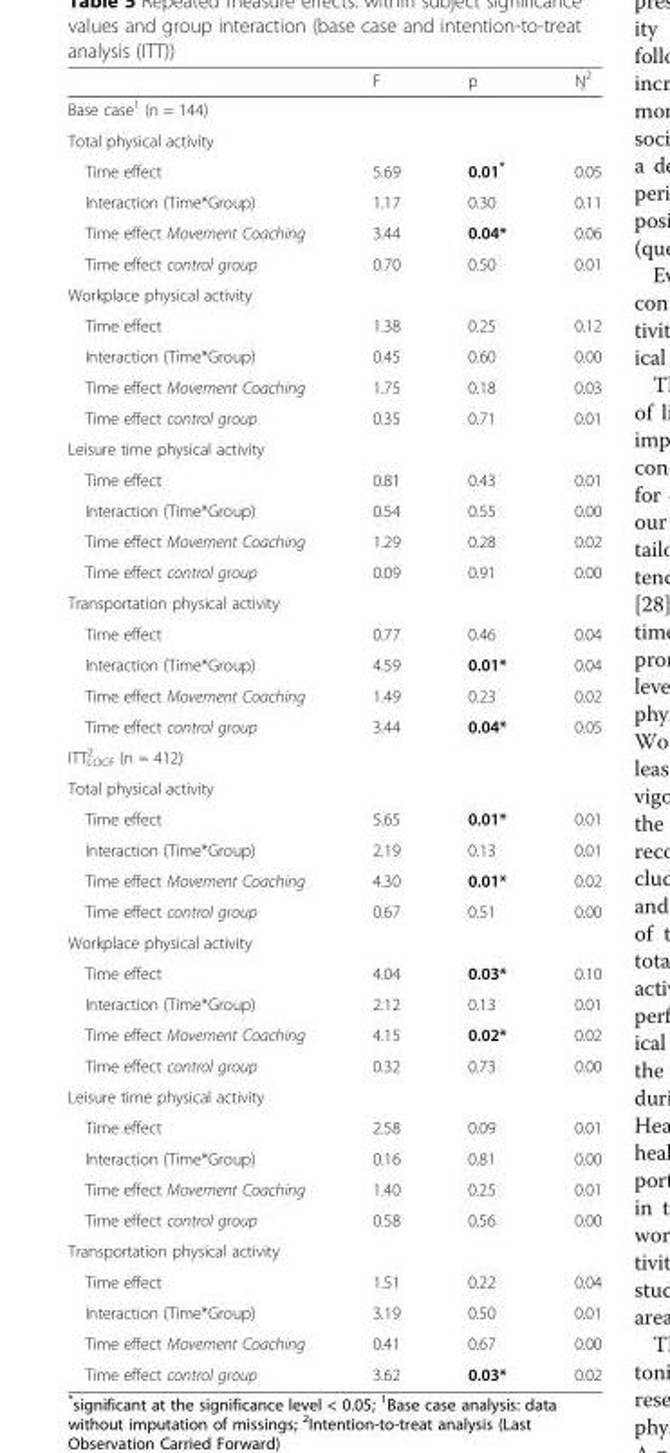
<table><thead><tr><td></td><td>F</td><td>p</td><td>Ŋ<sup>2</sup></td></tr></thead><tbody><tr><td colspan="4">Base case<sup>1</sup> (n = 144)</td></tr><tr><td colspan="4">Total physical activity</td></tr><tr><td>Time effect</td><td>5.69</td><td>0.01*</td><td>0.05</td></tr><tr><td>Interaction (Time*Group)</td><td>1.17</td><td>0.30</td><td>0.11</td></tr><tr><td>Time effect Movement Coaching</td><td>3.44</td><td>0.04*</td><td>0.06</td></tr><tr><td>Time effect control group</td><td>0.70</td><td>0.50</td><td>0.01</td></tr><tr><td colspan="4">Workplace physical activity</td></tr><tr><td>Time effect</td><td>1.38</td><td>0.25</td><td>0.12</td></tr><tr><td>Interaction (Time*Group)</td><td>0.45</td><td>0.60</td><td>0.00</td></tr><tr><td>Time effect Movement Coaching</td><td>1.75</td><td>0.18</td><td>0.03</td></tr><tr><td>Time effect control group</td><td>0.35</td><td>0.71</td><td>0.01</td></tr><tr><td colspan="4">Leisure time physical activity</td></tr><tr><td>Time effect</td><td>0.81</td><td>0.43</td><td>0.01</td></tr><tr><td>Interaction (Time*Group)</td><td>0.54</td><td>0.55</td><td>0.00</td></tr><tr><td>Time effect Movement Coaching</td><td>1.29</td><td>0.28</td><td>0.02</td></tr><tr><td>Time effect control group</td><td>0.09</td><td>0.91</td><td>0.00</td></tr><tr><td colspan="4">Transportation physical activity</td></tr><tr><td>Time effect</td><td>0.77</td><td>0.46</td><td>0.04</td></tr><tr><td>Interaction (Time*Group)</td><td>4.59</td><td>0.01*</td><td>0.04</td></tr><tr><td>Time effect Movement Coaching</td><td>1.49</td><td>0.23</td><td>0.02</td></tr><tr><td>Time effect control group</td><td>3.44</td><td>0.04*</td><td>0.05</td></tr><tr><td colspan="4">ITT<sub>LOCF</sub> <sup>2</sup> (n = 412)</td></tr><tr><td colspan="4">Total physical activity</td></tr><tr><td>Time effect</td><td>5.65</td><td>0.01*</td><td>0.01</td></tr><tr><td>Interaction (Time*Group)</td><td>2.19</td><td>0.13</td><td>0.01</td></tr><tr><td>Time effect Movement Coaching</td><td>4.30</td><td>0.01*</td><td>0.02</td></tr><tr><td>Time effect control group</td><td>0.67</td><td>0.51</td><td>0.00</td></tr><tr><td colspan="4">Workplace physical activity</td></tr><tr><td>Time effect</td><td>4.04</td><td>0.03*</td><td>0.10</td></tr><tr><td>Interaction (Time*Group)</td><td>2.12</td><td>0.13</td><td>0.01</td></tr><tr><td>Time effect Movement Coaching</td><td>4.15</td><td>0.02*</td><td>0.02</td></tr><tr><td>Time effect control group</td><td>0.32</td><td>0.73</td><td>0.00</td></tr><tr><td colspan="4">Leisure time physical activity</td></tr><tr><td>Time effect</td><td>2.58</td><td>0.09</td><td>0.01</td></tr><tr><td>Interaction (Time*Group)</td><td>0.16</td><td>0.81</td><td>0.00</td></tr><tr><td>Time effect Movement Coaching</td><td>1.40</td><td>0.25</td><td>0.01</td></tr><tr><td>Time effect control group</td><td>0.58</td><td>0.56</td><td>0.00</td></tr><tr><td colspan="4">Transportation physical activity</td></tr><tr><td>Time effect</td><td>1.51</td><td>0.22</td><td>0.04</td></tr><tr><td>Interaction (Time*Group)</td><td>3.19</td><td>0.50</td><td>0.01</td></tr><tr><td>Time effect Movement Coaching</td><td>0.41</td><td>0.67</td><td>0.00</td></tr><tr><td>Time effect control group</td><td>3.62</td><td>0.03*</td><td>0.02</td></tr></tbody></table>